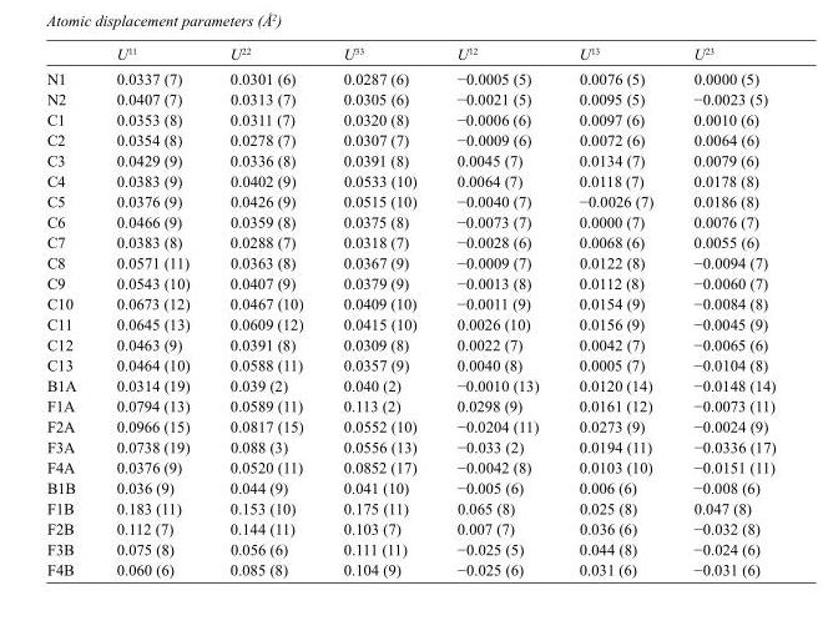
<table><thead><tr><td></td><td>U<sup>11</sup></td><td>U<sup>22</sup></td><td>U<sup>33</sup></td><td>U<sup>12</sup></td><td>U<sup>13</sup></td><td>U<sup>23</sup></td></tr></thead><tbody><tr><td>N1</td><td>0.0337 (7)</td><td>0.0301 (6)</td><td>0.0287 (6)</td><td>−0.0005 (5)</td><td>0.0076 (5)</td><td>0.0000 (5)</td></tr><tr><td>N2</td><td>0.0407 (7)</td><td>0.0313 (7)</td><td>0.0305 (6)</td><td>−0.0021 (5)</td><td>0.0095 (5)</td><td>−0.0023 (5)</td></tr><tr><td>C1</td><td>0.0353 (8)</td><td>0.0311 (7)</td><td>0.0320 (8)</td><td>−0.0006 (6)</td><td>0.0097 (6)</td><td>0.0010 (6)</td></tr><tr><td>C2</td><td>0.0354 (8)</td><td>0.0278 (7)</td><td>0.0307 (7)</td><td>−0.0009 (6)</td><td>0.0072 (6)</td><td>0.0064 (6)</td></tr><tr><td>C3</td><td>0.0429 (9)</td><td>0.0336 (8)</td><td>0.0391 (8)</td><td>0.0045 (7)</td><td>0.0134 (7)</td><td>0.0079 (6)</td></tr><tr><td>C4</td><td>0.0383 (9)</td><td>0.0402 (9)</td><td>0.0533 (10)</td><td>0.0064 (7)</td><td>0.0118 (7)</td><td>0.0178 (8)</td></tr><tr><td>C5</td><td>0.0376 (9)</td><td>0.0426 (9)</td><td>0.0515 (10)</td><td>−0.0040 (7)</td><td>−0.0026 (7)</td><td>0.0186 (8)</td></tr><tr><td>C6</td><td>0.0466 (9)</td><td>0.0359 (8)</td><td>0.0375 (8)</td><td>−0.0073 (7)</td><td>0.0000 (7)</td><td>0.0076 (7)</td></tr><tr><td>C7</td><td>0.0383 (8)</td><td>0.0288 (7)</td><td>0.0318 (7)</td><td>−0.0028 (6)</td><td>0.0068 (6)</td><td>0.0055 (6)</td></tr><tr><td>C8</td><td>0.0571 (11)</td><td>0.0363 (8)</td><td>0.0367 (9)</td><td>−0.0009 (7)</td><td>0.0122 (8)</td><td>−0.0094 (7)</td></tr><tr><td>C9</td><td>0.0543 (10)</td><td>0.0407 (9)</td><td>0.0379 (9)</td><td>−0.0013 (8)</td><td>0.0112 (8)</td><td>−0.0060 (7)</td></tr><tr><td>C10</td><td>0.0673 (12)</td><td>0.0467 (10)</td><td>0.0409 (10)</td><td>−0.0011 (9)</td><td>0.0154 (9)</td><td>−0.0084 (8)</td></tr><tr><td>C11</td><td>0.0645 (13)</td><td>0.0609 (12)</td><td>0.0415 (10)</td><td>0.0026 (10)</td><td>0.0156 (9)</td><td>−0.0045 (9)</td></tr><tr><td>C12</td><td>0.0463 (9)</td><td>0.0391 (8)</td><td>0.0309 (8)</td><td>0.0022 (7)</td><td>0.0042 (7)</td><td>−0.0065 (6)</td></tr><tr><td>C13</td><td>0.0464 (10)</td><td>0.0588 (11)</td><td>0.0357 (9)</td><td>0.0040 (8)</td><td>0.0005 (7)</td><td>−0.0104 (8)</td></tr><tr><td>B1A</td><td>0.0314 (19)</td><td>0.039 (2)</td><td>0.040 (2)</td><td>−0.0010 (13)</td><td>0.0120 (14)</td><td>−0.0148 (14)</td></tr><tr><td>F1A</td><td>0.0794 (13)</td><td>0.0589 (11)</td><td>0.113 (2)</td><td>0.0298 (9)</td><td>0.0161 (12)</td><td>−0.0073 (11)</td></tr><tr><td>F2A</td><td>0.0966 (15)</td><td>0.0817 (15)</td><td>0.0552 (10)</td><td>−0.0204 (11)</td><td>0.0273 (9)</td><td>−0.0024 (9)</td></tr><tr><td>F3A</td><td>0.0738 (19)</td><td>0.088 (3)</td><td>0.0556 (13)</td><td>−0.033 (2)</td><td>0.0194 (11)</td><td>−0.0336 (17)</td></tr><tr><td>F4A</td><td>0.0376 (9)</td><td>0.0520 (11)</td><td>0.0852 (17)</td><td>−0.0042 (8)</td><td>0.0103 (10)</td><td>−0.0151 (11)</td></tr><tr><td>B1B</td><td>0.036 (9)</td><td>0.044 (9)</td><td>0.041 (10)</td><td>−0.005 (6)</td><td>0.006 (6)</td><td>−0.008 (6)</td></tr><tr><td>F1B</td><td>0.183 (11)</td><td>0.153 (10)</td><td>0.175 (11)</td><td>0.065 (8)</td><td>0.025 (8)</td><td>0.047 (8)</td></tr><tr><td>F2B</td><td>0.112 (7)</td><td>0.144 (11)</td><td>0.103 (7)</td><td>0.007 (7)</td><td>0.036 (6)</td><td>−0.032 (8)</td></tr><tr><td>F3B</td><td>0.075 (8)</td><td>0.056 (6)</td><td>0.111 (11)</td><td>−0.025 (5)</td><td>0.044 (8)</td><td>−0.024 (6)</td></tr><tr><td>F4B</td><td>0.060 (6)</td><td>0.085 (8)</td><td>0.104 (9)</td><td>−0.025 (6)</td><td>0.031 (6)</td><td>−0.031 (6)</td></tr></tbody></table>